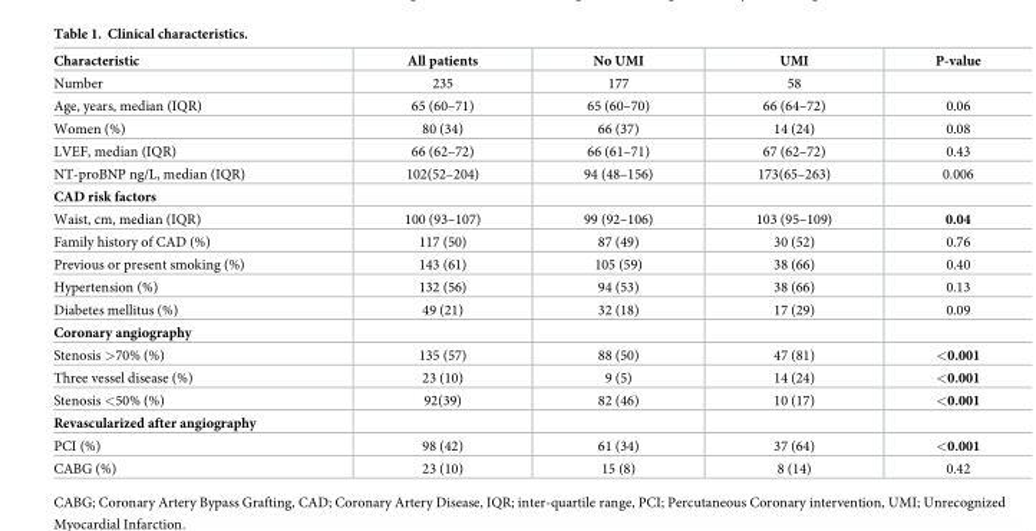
<table><thead><tr><td>Characteristic</td><td>All patients</td><td>No UMI</td><td>UMI</td><td>P-value</td></tr></thead><tbody><tr><td>Number</td><td>235</td><td>177</td><td>58</td><td></td></tr><tr><td>Age, years, median (IQR)</td><td>65 (60–71)</td><td>65 (60–70)</td><td>66 (64–72)</td><td>0.06</td></tr><tr><td>Women (%)</td><td>80 (34)</td><td>66 (37)</td><td>14 (24)</td><td>0.08</td></tr><tr><td>LVEF, median (IQR)</td><td>66 (62–72)</td><td>66 (61–71)</td><td>67 (62–72)</td><td>0.43</td></tr><tr><td>NT-proBNP ng/L, median (IQR)</td><td>102(52–204)</td><td>94 (48–156)</td><td>173(65–263)</td><td>0.006</td></tr><tr><td colspan="5">CAD risk factors</td></tr><tr><td>Waist, cm, median (IQR)</td><td>100 (93–107)</td><td>99 (92–106)</td><td>103 (95–109)</td><td>0.04</td></tr><tr><td>Family history of CAD (%)</td><td>117 (50)</td><td>87 (49)</td><td>30 (52)</td><td>0.76</td></tr><tr><td>Previous or present smoking (%)</td><td>143 (61)</td><td>105 (59)</td><td>38 (66)</td><td>0.40</td></tr><tr><td>Hypertension (%)</td><td>132 (56)</td><td>94 (53)</td><td>38 (66)</td><td>0.13</td></tr><tr><td>Diabetes mellitus (%)</td><td>49 (21)</td><td>32 (18)</td><td>17 (29)</td><td>0.09</td></tr><tr><td colspan="5">Coronary angiography</td></tr><tr><td>Stenosis &gt;70% (%)</td><td>135 (57)</td><td>88 (50)</td><td>47 (81)</td><td>&lt;0.001</td></tr><tr><td>Three vessel disease (%)</td><td>23 (10)</td><td>9 (5)</td><td>14 (24)</td><td>&lt;0.001</td></tr><tr><td>Stenosis &lt;50% (%)</td><td>92(39)</td><td>82 (46)</td><td>10 (17)</td><td>&lt;0.001</td></tr><tr><td colspan="5">Revascularized after angiography</td></tr><tr><td>PCI (%)</td><td>98 (42)</td><td>61 (34)</td><td>37 (64)</td><td>&lt;0.001</td></tr><tr><td>CABG (%)</td><td>23 (10)</td><td>15 (8)</td><td>8 (14)</td><td>0.42</td></tr></tbody></table>